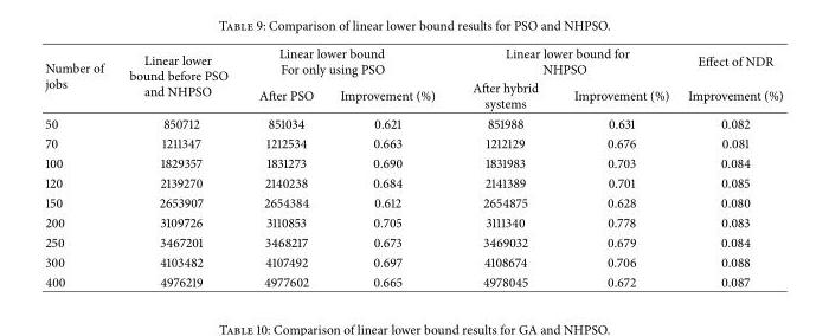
<table><thead><tr><td rowspan="2">Number of jobs</td><td rowspan="2">Linear lower bound before PSO and NHPSO</td><td colspan="2">Linear lower bound For only using PSO</td><td colspan="2">Linear lower bound for NHPSO</td><td rowspan="2">Effect of NDR Improvement (%)</td></tr><tr><td>After PSO</td><td>Improvement (%)</td><td>After hybrid systems</td><td>Improvement (%)</td></tr></thead><tbody><tr><td>50</td><td>850712</td><td>851034</td><td>0.621</td><td>851988</td><td>0.631</td><td>0.082</td></tr><tr><td>70</td><td>1211347</td><td>1212534</td><td>0.663</td><td>1212129</td><td>0.676</td><td>0.081</td></tr><tr><td>100</td><td>1829357</td><td>1831273</td><td>0.690</td><td>1831983</td><td>0.703</td><td>0.084</td></tr><tr><td>120</td><td>2139270</td><td>2140238</td><td>0.684</td><td>2141389</td><td>0.701</td><td>0.085</td></tr><tr><td>150</td><td>2653907</td><td>2654384</td><td>0.612</td><td>2654875</td><td>0.628</td><td>0.080</td></tr><tr><td>200</td><td>3109726</td><td>3110853</td><td>0.705</td><td>3111340</td><td>0.778</td><td>0.083</td></tr><tr><td>250</td><td>3467201</td><td>3468217</td><td>0.673</td><td>3469032</td><td>0.679</td><td>0.084</td></tr><tr><td>300</td><td>4103482</td><td>4107492</td><td>0.697</td><td>4108674</td><td>0.706</td><td>0.088</td></tr><tr><td>400</td><td>4976219</td><td>4977602</td><td>0.665</td><td>4978045</td><td>0.672</td><td>0.087</td></tr></tbody></table>